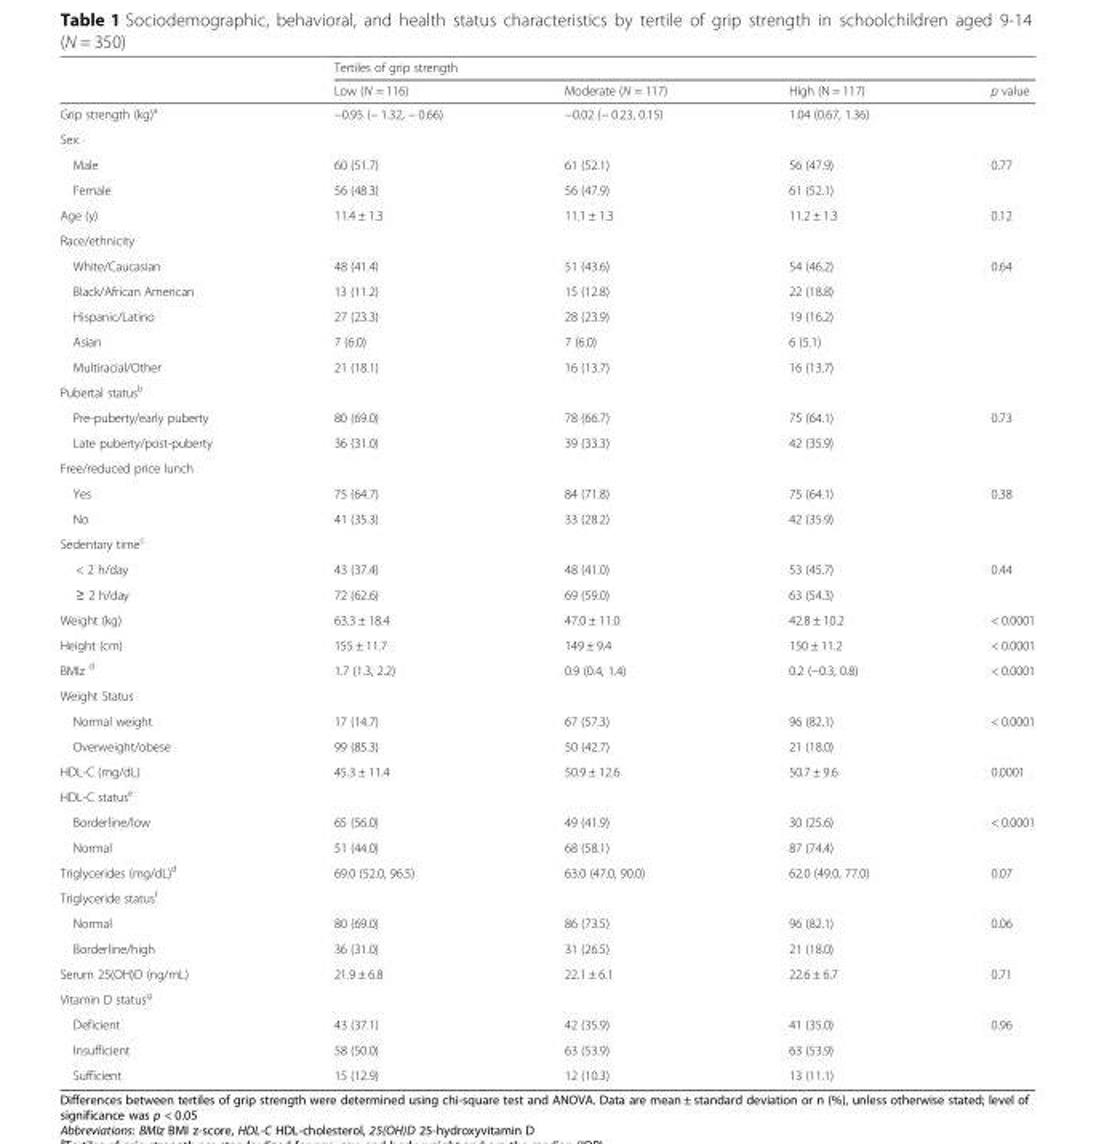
<table><thead><tr><td rowspan="2"></td><td colspan="4">Tertiles of grip strength</td></tr><tr><td>Low (N = 116)</td><td>Moderate (N = 117)</td><td>High (N = 117)</td><td>p value</td></tr></thead><tbody><tr><td>Grip strength (kg)<sup>a</sup></td><td>−0.95 (− 1.32, − 0.66)</td><td>−0.02 (− 0.23, 0.15)</td><td>1.04 (0.67, 1.36)</td><td></td></tr><tr><td colspan="5">Sex</td></tr><tr><td>Male</td><td>60 (51.7)</td><td>61 (52.1)</td><td>56 (47.9)</td><td rowspan="2">0.77</td></tr><tr><td>Female</td><td>56 (48.3)</td><td>56 (47.9)</td><td>61 (52.1)</td></tr><tr><td>Age (y)</td><td>11.4 ± 1.3</td><td>11.1 ± 1.3</td><td>11.2 ± 1.3</td><td>0.12</td></tr><tr><td colspan="5">Race/ethnicity</td></tr><tr><td>White/Caucasian</td><td>48 (41.4)</td><td>51 (43.6)</td><td>54 (46.2)</td><td rowspan="5">0.64</td></tr><tr><td>Black/African American</td><td>13 (11.2)</td><td>15 (12.8)</td><td>22 (18.8)</td></tr><tr><td>Hispanic/Latino</td><td>27 (23.3)</td><td>28 (23.9)</td><td>19 (16.2)</td></tr><tr><td>Asian</td><td>7 (6.0)</td><td>7 (6.0)</td><td>6 (5.1)</td></tr><tr><td>Multiracial/Other</td><td>21 (18.1)</td><td>16 (13.7)</td><td>16 (13.7)</td></tr><tr><td colspan="5">Pubertal status<sup>b</sup></td></tr><tr><td>Pre-puberty/early puberty</td><td>80 (69.0)</td><td>78 (66.7)</td><td>75 (64.1)</td><td rowspan="2">0.73</td></tr><tr><td>Late puberty/post-puberty</td><td>36 (31.0)</td><td>39 (33.3)</td><td>42 (35.9)</td></tr><tr><td colspan="5">Free/reduced price lunch</td></tr><tr><td>Yes</td><td>75 (64.7)</td><td>84 (71.8)</td><td>75 (64.1)</td><td rowspan="2">0.38</td></tr><tr><td>No</td><td>41 (35.3)</td><td>33 (28.2)</td><td>42 (35.9)</td></tr><tr><td colspan="5">Sedentary time<sup>c</sup></td></tr><tr><td>&lt; 2 h/day</td><td>43 (37.4)</td><td>48 (41.0)</td><td>53 (45.7)</td><td rowspan="2">0.44</td></tr><tr><td>≥ 2 h/day</td><td>72 (62.6)</td><td>69 (59.0)</td><td>63 (54.3)</td></tr><tr><td>Weight (kg)</td><td>63.3 ± 18.4</td><td>47.0 ± 11.0</td><td>42.8 ± 10.2</td><td>&lt; 0.0001</td></tr><tr><td>Height (cm)</td><td>155 ± 11.7</td><td>149 ± 9.4</td><td>150 ± 11.2</td><td>&lt; 0.0001</td></tr><tr><td>BMIz <sup>d</sup></td><td>1.7 (1.3, 2.2)</td><td>0.9 (0.4, 1.4)</td><td>0.2 (−0.3, 0.8)</td><td>&lt; 0.0001</td></tr><tr><td colspan="5">Weight Status</td></tr><tr><td>Normal weight</td><td>17 (14.7)</td><td>67 (57.3)</td><td>96 (82.1)</td><td rowspan="2">&lt; 0.0001</td></tr><tr><td>Overweight/obese</td><td>99 (85.3)</td><td>50 (42.7)</td><td>21 (18.0)</td></tr><tr><td>HDL-C (mg/dL)</td><td>45.3 ± 11.4</td><td>50.9 ± 12.6</td><td>50.7 ± 9.6</td><td>0.0001</td></tr><tr><td colspan="5">HDL-C status<sup>e</sup></td></tr><tr><td>Borderline/low</td><td>65 (56.0)</td><td>49 (41.9)</td><td>30 (25.6)</td><td rowspan="2">&lt; 0.0001</td></tr><tr><td>Normal</td><td>51 (44.0)</td><td>68 (58.1)</td><td>87 (74.4)</td></tr><tr><td>Triglycerides (mg/dL)<sup>d</sup></td><td>69.0 (52.0, 96.5)</td><td>63.0 (47.0, 90.0)</td><td>62.0 (49.0, 77.0)</td><td>0.07</td></tr><tr><td colspan="5">Triglyceride status<sup>f</sup></td></tr><tr><td>Normal</td><td>80 (69.0)</td><td>86 (73.5)</td><td>96 (82.1)</td><td rowspan="2">0.06</td></tr><tr><td>Borderline/high</td><td>36 (31.0)</td><td>31 (26.5)</td><td>21 (18.0)</td></tr><tr><td>Serum 25(OH)D (ng/mL)</td><td>21.9 ± 6.8</td><td>22.1 ± 6.1</td><td>22.6 ± 6.7</td><td>0.71</td></tr><tr><td colspan="5">Vitamin D status<sup>g</sup></td></tr><tr><td>Deficient</td><td>43 (37.1)</td><td>42 (35.9)</td><td>41 (35.0)</td><td rowspan="3">0.96</td></tr><tr><td>Insufficient</td><td>58 (50.0)</td><td>63 (53.9)</td><td>63 (53.9)</td></tr><tr><td>Sufficient</td><td>15 (12.9)</td><td>12 (10.3)</td><td>13 (11.1)</td></tr></tbody></table>